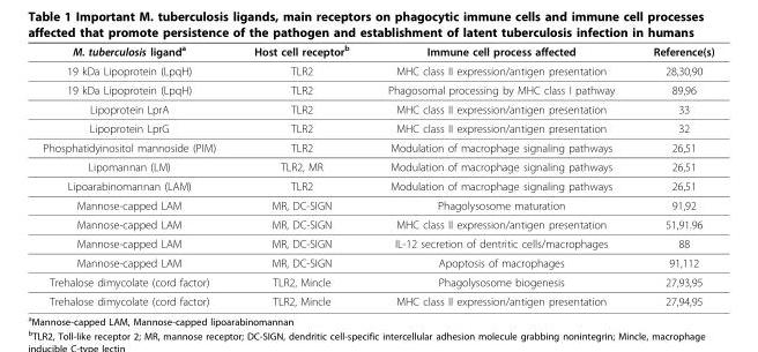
<table><thead><tr><td>M. tuberculosis ligand<sup>a</sup></td><td>Host cell receptor<sup>b</sup></td><td>Immune cell process affected</td><td>Reference(s)</td></tr></thead><tbody><tr><td>19 kDa Lipoprotein (LpqH)</td><td>TLR2</td><td>MHC class II expression/antigen presentation</td><td>28,30,90</td></tr><tr><td>19 kDa Lipoprotein (LpqH)</td><td>TLR2</td><td>Phagosomal processing by MHC class I pathway</td><td>89,96</td></tr><tr><td>Lipoprotein LprA</td><td>TLR2</td><td>MHC class II expression/antigen presentation</td><td>33</td></tr><tr><td>Lipoprotein LprG</td><td>TLR2</td><td>MHC class II expression/antigen presentation</td><td>32</td></tr><tr><td>Phosphatidyinositol mannoside (PIM)</td><td>TLR2</td><td>Modulation of macrophage signaling pathways</td><td>26,51</td></tr><tr><td>Lipomannan (LM)</td><td>TLR2, MR</td><td>Modulation of macrophage signaling pathways</td><td>26,51</td></tr><tr><td>Lipoarabinomannan (LAM)</td><td>TLR2</td><td>Modulation of macrophage signaling pathways</td><td>26,51</td></tr><tr><td>Mannose-capped LAM</td><td>MR, DC-SIGN</td><td>Phagolysosome maturation</td><td>91,92</td></tr><tr><td>Mannose-capped LAM</td><td>MR, DC-SIGN</td><td>MHC class II expression/antigen presentation</td><td>51,91.96</td></tr><tr><td>Mannose-capped LAM</td><td>MR, DC-SIGN</td><td>IL-12 secretion of dentritic cells/macrophages</td><td>88</td></tr><tr><td>Mannose-capped LAM</td><td>MR, DC-SIGN</td><td>Apoptosis of macrophages</td><td>91,112</td></tr><tr><td>Trehalose dimycolate (cord factor)</td><td>TLR2, Mincle</td><td>Phagolysosome biogenesis</td><td>27,93,95</td></tr><tr><td>Trehalose dimycolate (cord factor)</td><td>TLR2, Mincle</td><td>MHC class II expression/antigen presentation</td><td>27,94,95</td></tr></tbody></table>